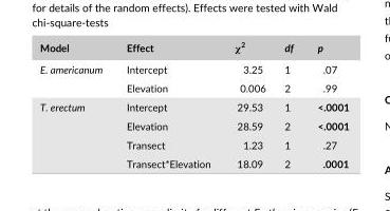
<table><thead><tr><td>Model</td><td>Effect</td><td>χ<sup>2</sup></td><td>df</td><td>p</td></tr></thead><tbody><tr><td rowspan="2">E. americanum</td><td>Intercept</td><td>3.25</td><td>1</td><td>.07</td></tr><tr><td>Elevation</td><td>0.006</td><td>2</td><td>.99</td></tr><tr><td rowspan="4">T. erectum</td><td>Intercept</td><td>29.53</td><td>1</td><td>&lt;.0001</td></tr><tr><td>Elevation</td><td>28.59</td><td>2</td><td>&lt;.0001</td></tr><tr><td>Transect</td><td>1.23</td><td>1</td><td>.27</td></tr><tr><td>Transect*Elevation</td><td>18.09</td><td>2</td><td>.0001</td></tr></tbody></table>